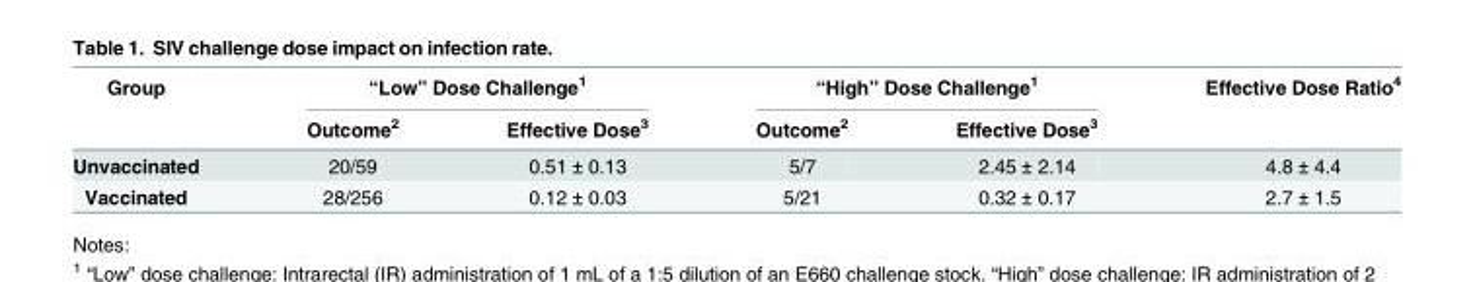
<table><thead><tr><td rowspan="2">Group</td><td colspan="2">“Low” Dose Challenge<sup>1</sup></td><td colspan="2">“High” Dose Challenge<sup>1</sup></td><td rowspan="2">Effective Dose Ratio<sup>4</sup></td></tr><tr><td>Outcome<sup>2</sup></td><td>Effective Dose<sup>3</sup></td><td>Outcome<sup>2</sup></td><td>Effective Dose<sup>3</sup></td></tr></thead><tbody><tr><td>Unvaccinated</td><td>20/59</td><td>0.51 ± 0.13</td><td>5/7</td><td>2.45 ± 2.14</td><td>4.8 ± 4.4</td></tr><tr><td>Vaccinated</td><td>28/256</td><td>0.12 ± 0.03</td><td>5/21</td><td>0.32 ± 0.17</td><td>2.7 ± 1.5</td></tr></tbody></table>